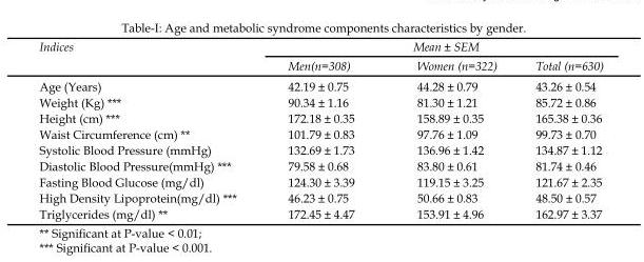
<table><thead><tr><td rowspan="2">Indices</td><td colspan="3">Mean ± SEM</td></tr><tr><td>Men(n=308)</td><td>Women (n=322)</td><td>Total (n=630)</td></tr></thead><tbody><tr><td>Age (Years)</td><td>42.19 ± 0.75</td><td>44.28 ± 0.79</td><td>43.26 ± 0.54</td></tr><tr><td>Weight (Kg) ***</td><td>90.34 ± 1.16</td><td>81.30 ± 1.21</td><td>85.72 ± 0.86</td></tr><tr><td>Height (cm) ***</td><td>172.18 ± 0.35</td><td>158.89 ± 0.35</td><td>165.38 ± 0.36</td></tr><tr><td>Waist Circumference (cm) **</td><td>101.79 ± 0.83</td><td>97.76 ± 1.09</td><td>99.73 ± 0.70</td></tr><tr><td>Systolic Blood Pressure (mmHg)</td><td>132.69 ± 1.73</td><td>136.96 ± 1.42</td><td>134.87 ± 1.12</td></tr><tr><td>Diastolic Blood Pressure(mmHg) ***</td><td>79.58 ± 0.68</td><td>83.80 ± 0.61</td><td>81.74 ± 0.46</td></tr><tr><td>Fasting Blood Glucose (mg/dl)</td><td>124.30 ± 3.39</td><td>119.15 ± 3.25</td><td>121.67 ± 2.35</td></tr><tr><td>High Density Lipoprotein(mg/dl) ***</td><td>46.23 ± 0.75</td><td>50.66 ± 0.83</td><td>48.50 ± 0.57</td></tr><tr><td>Triglycerides (mg/dl) **</td><td>172.45 ± 4.47</td><td>153.91 ± 4.96</td><td>162.97 ± 3.37</td></tr></tbody></table>